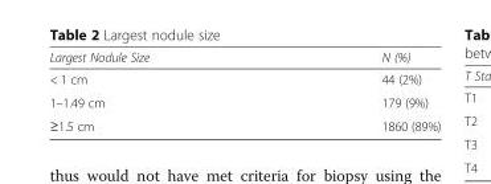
<table><thead><tr><td>Largest Nodule Size</td><td>N (%)</td></tr></thead><tbody><tr><td>&lt; 1 cm</td><td>44 (2%)</td></tr><tr><td>1–1.49 cm</td><td>179 (9%)</td></tr><tr><td>≥1.5 cm</td><td>1860 (89%)</td></tr></tbody></table>